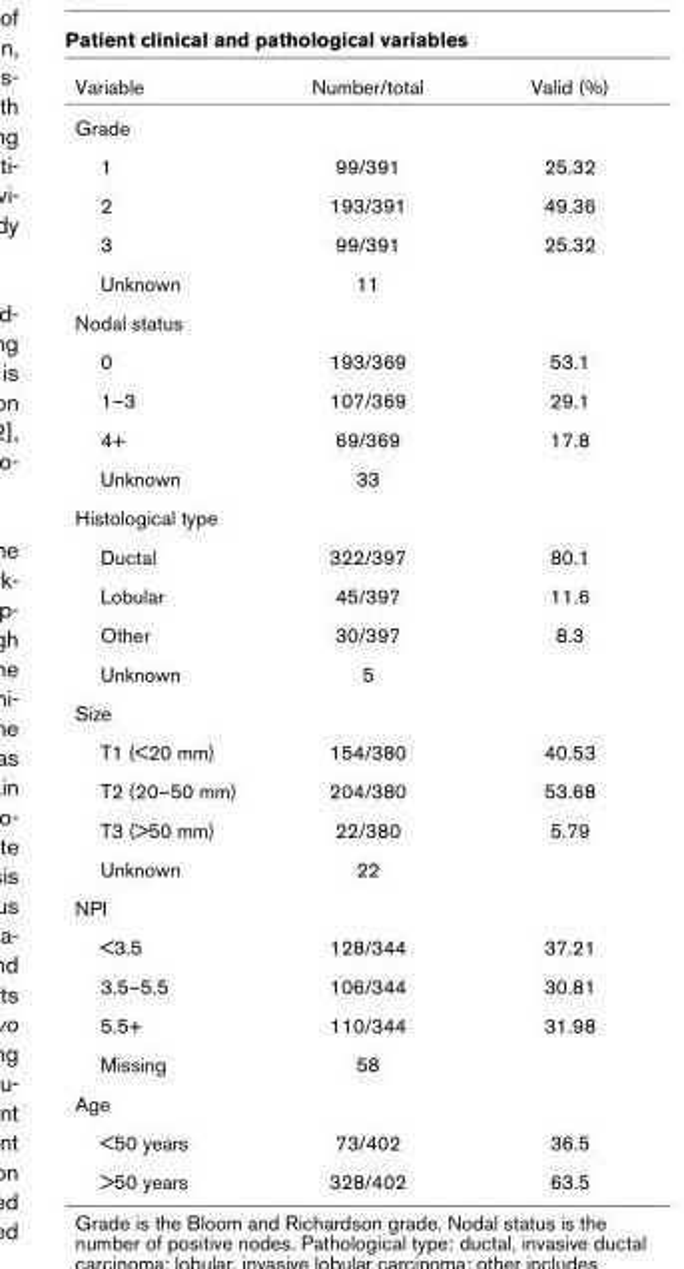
<table><thead><tr><td>Variable</td><td>Number/total</td><td>Valid (%)</td></tr></thead><tbody><tr><td colspan="3">Grade</td></tr><tr><td>1</td><td>99/391</td><td>25.32</td></tr><tr><td>2</td><td>193/391</td><td>49.36</td></tr><tr><td>3</td><td>99/391</td><td>25.32</td></tr><tr><td>Unknown</td><td>11</td><td></td></tr><tr><td colspan="3">Nodal status</td></tr><tr><td>0</td><td>193/369</td><td>53.1</td></tr><tr><td>1–3</td><td>107/369</td><td>29.1</td></tr><tr><td>4+</td><td>69/369</td><td>17.8</td></tr><tr><td>Unknown</td><td>33</td><td></td></tr><tr><td colspan="3">Histological type</td></tr><tr><td>Ductal</td><td>322/397</td><td>80.1</td></tr><tr><td>Lobular</td><td>45/397</td><td>11.6</td></tr><tr><td>Other</td><td>30/397</td><td>8.3</td></tr><tr><td>Unknown</td><td>5</td><td></td></tr><tr><td colspan="3">Size</td></tr><tr><td>T1 (&lt;20 mm)</td><td>154/380</td><td>40.53</td></tr><tr><td>T2 (20–50 mm)</td><td>204/380</td><td>53.68</td></tr><tr><td>T3 (&gt;50 mm)</td><td>22/380</td><td>5.79</td></tr><tr><td>Unknown</td><td>22</td><td></td></tr><tr><td colspan="3">NPI</td></tr><tr><td>&lt;3.5</td><td>128/344</td><td>37.21</td></tr><tr><td>3.5–5.5</td><td>106/344</td><td>30.81</td></tr><tr><td>5.5+</td><td>110/344</td><td>31.98</td></tr><tr><td>Missing</td><td>58</td><td></td></tr><tr><td colspan="3">Age</td></tr><tr><td>&lt;50 years</td><td>73/402</td><td>36.5</td></tr><tr><td>&gt;50 years</td><td>328/402</td><td>63.5</td></tr></tbody></table>